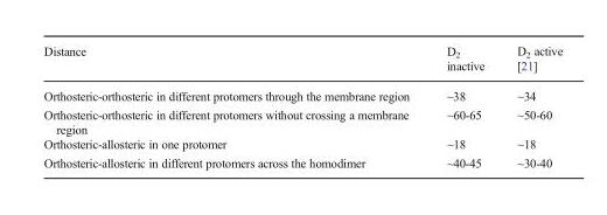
<table><thead><tr><td>Distance</td><td>D<sub>2</sub> inactive</td><td>D<sub>2</sub> active [21]</td></tr></thead><tbody><tr><td>Orthosteric-orthosteric in different protomers through the membrane region</td><td>~38</td><td>~34</td></tr><tr><td>Orthosteric-orthosteric in different protomers without crossing a membrane region</td><td>~60-65</td><td>~50-60</td></tr><tr><td>Orthosteric-allosteric in one protomer</td><td>~18</td><td>~18</td></tr><tr><td>Orthosteric-allosteric in different protomers across the homodimer</td><td>~40-45</td><td>~30-40</td></tr></tbody></table>